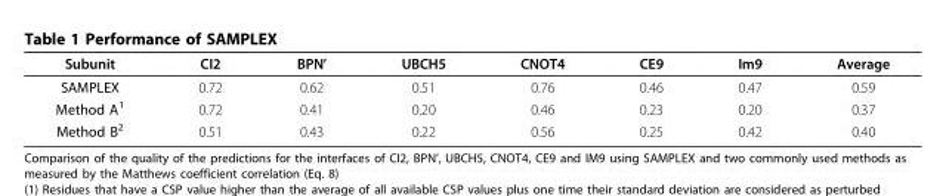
<table><thead><tr><td>Subunit</td><td>CI2</td><td>BPN’</td><td>UBCH5</td><td>CNOT4</td><td>CE9</td><td>Im9</td><td>Average</td></tr></thead><tbody><tr><td>SAMPLEX</td><td>0.72</td><td>0.62</td><td>0.51</td><td>0.76</td><td>0.46</td><td>0.47</td><td>0.59</td></tr><tr><td>Method A<sup>1</sup></td><td>0.72</td><td>0.41</td><td>0.20</td><td>0.46</td><td>0.23</td><td>0.20</td><td>0.37</td></tr><tr><td>Method B<sup>2</sup></td><td>0.51</td><td>0.43</td><td>0.22</td><td>0.56</td><td>0.25</td><td>0.42</td><td>0.40</td></tr></tbody></table>